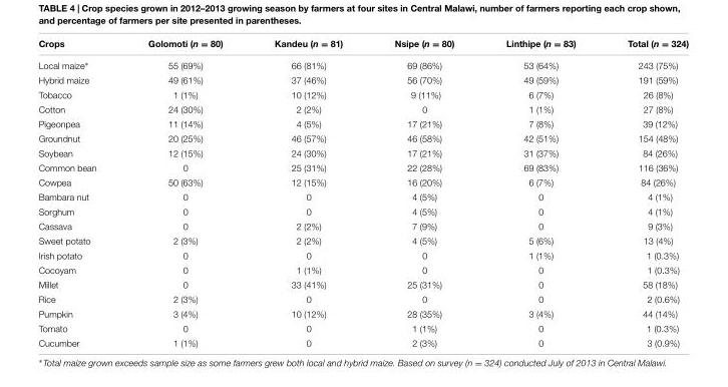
<table><thead><tr><td>Crops</td><td>Golomoti (n = 80)</td><td>Kandeu (n = 81)</td><td>Nsipe (n = 80)</td><td>Linthipe (n = 83)</td><td>Total (n = 324)</td></tr></thead><tbody><tr><td>Local maize∗</td><td>55 (69%)</td><td>66 (81%)</td><td>69 (86%)</td><td>53 (64%)</td><td>243 (75%)</td></tr><tr><td>Hybrid maize</td><td>49 (61%)</td><td>37 (46%)</td><td>56 (70%)</td><td>49 (59%)</td><td>191 (59%)</td></tr><tr><td>Tobacco</td><td>1 (1%)</td><td>10 (12%)</td><td>9 (11%)</td><td>6 (7%)</td><td>26 (8%)</td></tr><tr><td>Cotton</td><td>24 (30%)</td><td>2 (2%)</td><td>0</td><td>1 (1%)</td><td>27 (8%)</td></tr><tr><td>Pigeonpea</td><td>11 (14%)</td><td>4 (5%)</td><td>17 (21%)</td><td>7 (8%)</td><td>39 (12%)</td></tr><tr><td>Groundnut</td><td>20 (25%)</td><td>46 (57%)</td><td>46 (58%)</td><td>42 (51%)</td><td>154 (48%)</td></tr><tr><td>Soybean</td><td>12 (15%)</td><td>24 (30%)</td><td>17 (21%)</td><td>31 (37%)</td><td>84 (26%)</td></tr><tr><td>Common bean</td><td>0</td><td>25 (31%)</td><td>22 (28%)</td><td>69 (83%)</td><td>116 (36%)</td></tr><tr><td>Cowpea</td><td>50 (63%)</td><td>12 (15%)</td><td>16 (20%)</td><td>6 (7%)</td><td>84 (26%)</td></tr><tr><td>Bambara nut</td><td>0</td><td>0</td><td>4 (5%)</td><td>0</td><td>4 (1%)</td></tr><tr><td>Sorghum</td><td>0</td><td>0</td><td>4 (5%)</td><td>0</td><td>4 (1%)</td></tr><tr><td>Cassava</td><td>0</td><td>2 (2%)</td><td>7 (9%)</td><td>0</td><td>9 (3%)</td></tr><tr><td>Sweet potato</td><td>2 (3%)</td><td>2 (2%)</td><td>4 (5%)</td><td>5 (6%)</td><td>13 (4%)</td></tr><tr><td>Irish potato</td><td>0</td><td>0</td><td>0</td><td>1 (1%)</td><td>1 (0.3%)</td></tr><tr><td>Cocoyam</td><td>0</td><td>1 (1%)</td><td>0</td><td>0</td><td>1 (0.3%)</td></tr><tr><td>Millet</td><td>0</td><td>33 (41%)</td><td>25 (31%)</td><td>0</td><td>58 (18%)</td></tr><tr><td>Rice</td><td>2 (3%)</td><td>0</td><td>0</td><td>0</td><td>2 (0.6%)</td></tr><tr><td>Pumpkin</td><td>3 (4%)</td><td>10 (12%)</td><td>28 (35%)</td><td>3 (4%)</td><td>44 (14%)</td></tr><tr><td>Tomato</td><td>0</td><td>0</td><td>1 (1%)</td><td>0</td><td>1 (0.3%)</td></tr><tr><td>Cucumber</td><td>1 (1%)</td><td>0</td><td>2 (3%)</td><td>0</td><td>3 (0.9%)</td></tr></tbody></table>